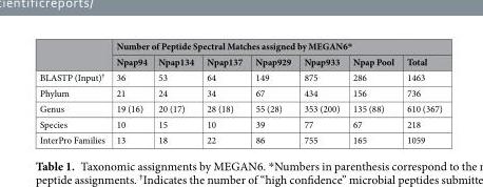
<table><thead><tr><td rowspan="2"></td><td colspan="7">Number of Peptide Spectral Matches assigned by MEGAN6*</td></tr><tr><td>Npap94</td><td>Npap134</td><td>Npap137</td><td>Npap929</td><td>Npap933</td><td>Npap Pool</td><td>Total</td></tr></thead><tbody><tr><td>BLASTP (Input)<sup>†</sup></td><td>36</td><td>53</td><td>64</td><td>149</td><td>875</td><td>286</td><td>1463</td></tr><tr><td>Phylum</td><td>21</td><td>24</td><td>34</td><td>67</td><td>434</td><td>156</td><td>736</td></tr><tr><td>Genus</td><td>19 (16)</td><td>20 (17)</td><td>28 (18)</td><td>55 (28)</td><td>353 (200)</td><td>135 (88)</td><td>610 (367)</td></tr><tr><td>Species</td><td>10</td><td>15</td><td>10</td><td>39</td><td>77</td><td>67</td><td>218</td></tr><tr><td>InterPro Families</td><td>13</td><td>18</td><td>22</td><td>86</td><td>755</td><td>165</td><td>1059</td></tr></tbody></table>